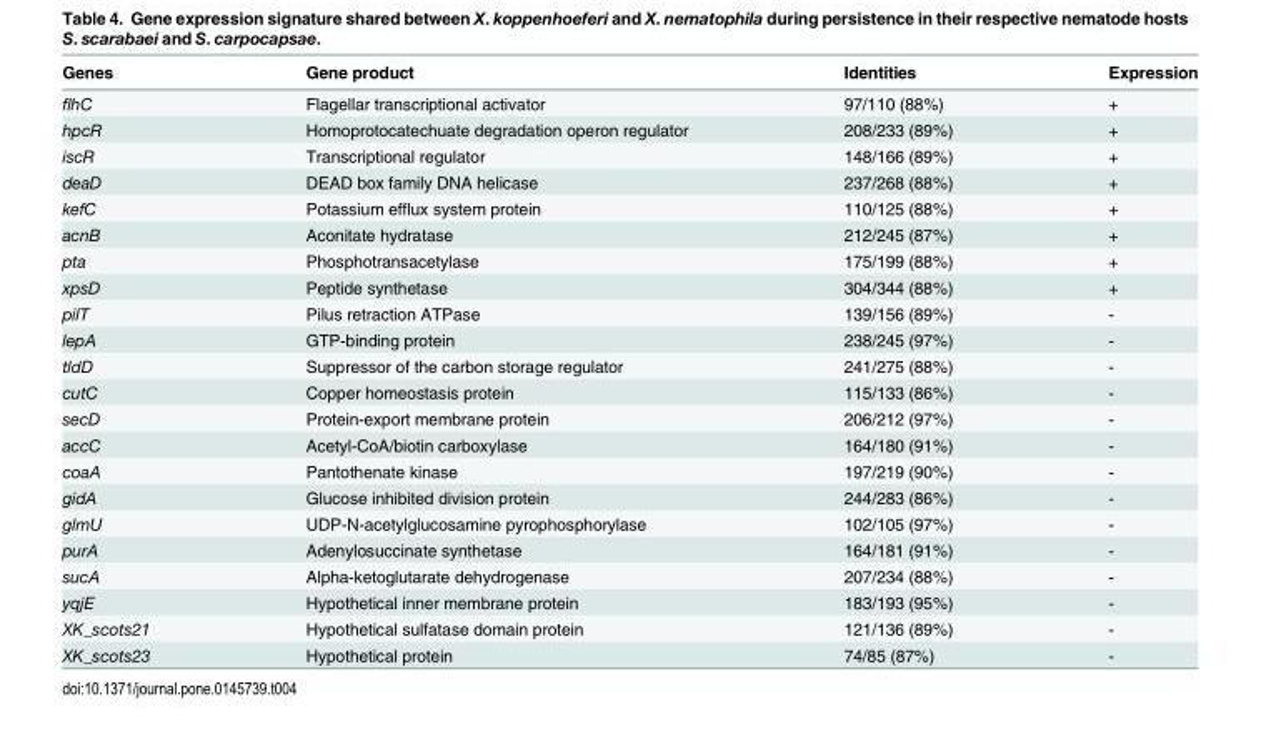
<table><thead><tr><td>Genes</td><td>Gene product</td><td>Identities</td><td>Expression</td></tr></thead><tbody><tr><td>flhC</td><td>Flagellar transcriptional activator</td><td>97/110 (88%)</td><td>+</td></tr><tr><td>hpcR</td><td>Homoprotocatechuate degradation operon regulator</td><td>208/233 (89%)</td><td>+</td></tr><tr><td>iscR</td><td>Transcriptional regulator</td><td>148/166 (89%)</td><td>+</td></tr><tr><td>deaD</td><td>DEAD box family DNA helicase</td><td>237/268 (88%)</td><td>+</td></tr><tr><td>kefC</td><td>Potassium efflux system protein</td><td>110/125 (88%)</td><td>+</td></tr><tr><td>acnB</td><td>Aconitate hydratase</td><td>212/245 (87%)</td><td>+</td></tr><tr><td>pta</td><td>Phosphotransacetylase</td><td>175/199 (88%)</td><td>+</td></tr><tr><td>xpsD</td><td>Peptide synthetase</td><td>304/344 (88%)</td><td>+</td></tr><tr><td>pilT</td><td>Pilus retraction ATPase</td><td>139/156 (89%)</td><td>-</td></tr><tr><td>lepA</td><td>GTP-binding protein</td><td>238/245 (97%)</td><td>-</td></tr><tr><td>tldD</td><td>Suppressor of the carbon storage regulator</td><td>241/275 (88%)</td><td>-</td></tr><tr><td>cutC</td><td>Copper homeostasis protein</td><td>115/133 (86%)</td><td>-</td></tr><tr><td>secD</td><td>Protein-export membrane protein</td><td>206/212 (97%)</td><td>-</td></tr><tr><td>accC</td><td>Acetyl-CoA/biotin carboxylase</td><td>164/180 (91%)</td><td>-</td></tr><tr><td>coaA</td><td>Pantothenate kinase</td><td>197/219 (90%)</td><td>-</td></tr><tr><td>gidA</td><td>Glucose inhibited division protein</td><td>244/283 (86%)</td><td>-</td></tr><tr><td>glmU</td><td>UDP-N-acetylglucosamine pyrophosphorylase</td><td>102/105 (97%)</td><td>-</td></tr><tr><td>purA</td><td>Adenylosuccinate synthetase</td><td>164/181 (91%)</td><td>-</td></tr><tr><td>sucA</td><td>Alpha-ketoglutarate dehydrogenase</td><td>207/234 (88%)</td><td>-</td></tr><tr><td>yqjE</td><td>Hypothetical inner membrane protein</td><td>183/193 (95%)</td><td>-</td></tr><tr><td>XK_scots21</td><td>Hypothetical sulfatase domain protein</td><td>121/136 (89%)</td><td>-</td></tr><tr><td>XK_scots23</td><td>Hypothetical protein</td><td>74/85 (87%)</td><td>-</td></tr></tbody></table>